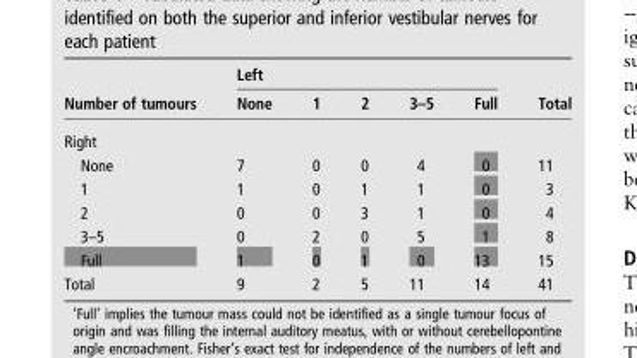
<table><thead><tr><td rowspan="2">Number of tumours</td><td colspan="5">Left</td><td rowspan="2">Total</td></tr><tr><td>None</td><td>1</td><td>2</td><td>3–5</td><td>Full</td></tr></thead><tbody><tr><td colspan="7">Right</td></tr><tr><td>None</td><td>7</td><td>0</td><td>0</td><td>4</td><td>0</td><td>11</td></tr><tr><td>1</td><td>1</td><td>0</td><td>1</td><td>1</td><td>0</td><td>3</td></tr><tr><td>2</td><td>0</td><td>0</td><td>3</td><td>1</td><td>0</td><td>4</td></tr><tr><td>3–5</td><td>0</td><td>2</td><td>0</td><td>5</td><td>1</td><td>8</td></tr><tr><td>Full</td><td>1</td><td>0</td><td>1</td><td>0</td><td>13</td><td>15</td></tr><tr><td>Total</td><td>9</td><td>2</td><td>5</td><td>11</td><td>14</td><td>41</td></tr></tbody></table>